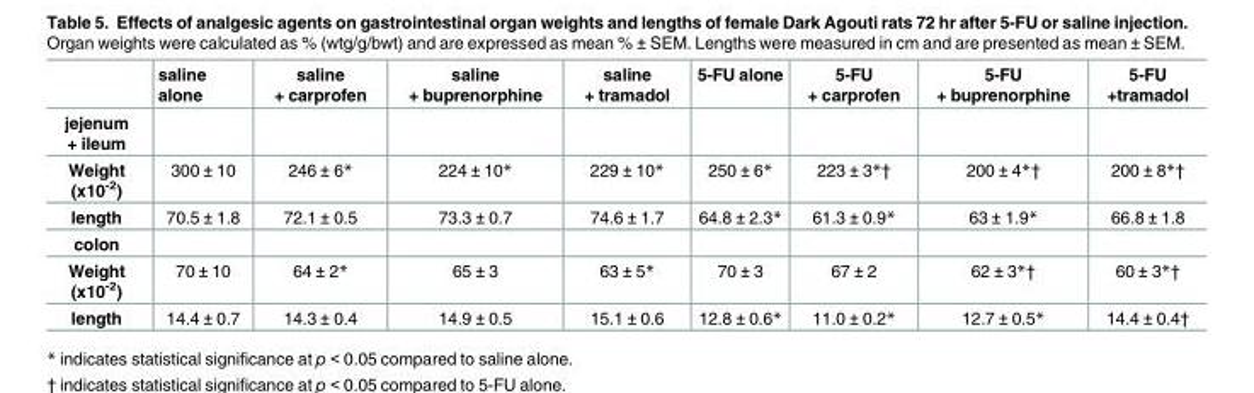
<table><thead><tr><td></td><td>saline alone</td><td>saline + carprofen</td><td>saline + buprenorphine</td><td>saline + tramadol</td><td>5-FU alone</td><td>5-FU + carprofen</td><td>5-FU + buprenorphine</td><td>5-FU +tramadol</td></tr></thead><tbody><tr><td colspan="9">jejenum + ileum</td></tr><tr><td>Weight (x10<sup>-2</sup>)</td><td>300 ± 10</td><td>246 ± 6*</td><td>224 ± 10*</td><td>229 ± 10*</td><td>250 ± 6*</td><td>223 ± 3*†</td><td>200 ± 4*†</td><td>200 ± 8*†</td></tr><tr><td>length</td><td>70.5 ± 1.8</td><td>72.1 ± 0.5</td><td>73.3 ± 0.7</td><td>74.6 ± 1.7</td><td>64.8 ± 2.3*</td><td>61.3 ± 0.9*</td><td>63 ± 1.9*</td><td>66.8 ± 1.8</td></tr><tr><td colspan="9">colon</td></tr><tr><td>Weight (x10<sup>-2</sup>)</td><td>70 ± 10</td><td>64 ± 2*</td><td>65 ± 3</td><td>63 ± 5*</td><td>70 ± 3</td><td>67 ± 2</td><td>62 ± 3*†</td><td>60 ± 3*†</td></tr><tr><td>length</td><td>14.4 ± 0.7</td><td>14.3 ± 0.4</td><td>14.9 ± 0.5</td><td>15.1 ± 0.6</td><td>12.8 ± 0.6*</td><td>11.0 ± 0.2*</td><td>12.7 ± 0.5*</td><td>14.4 ± 0.4†</td></tr></tbody></table>